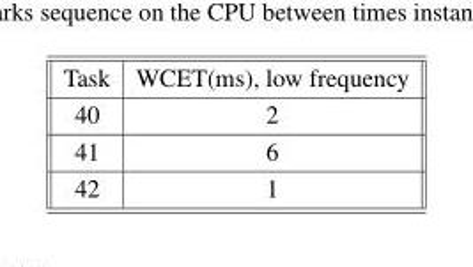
<table><thead><tr><td>Task</td><td>WCET(ms), low frequency</td></tr></thead><tbody><tr><td>40</td><td>2</td></tr><tr><td>41</td><td>6</td></tr><tr><td>42</td><td>1</td></tr></tbody></table>